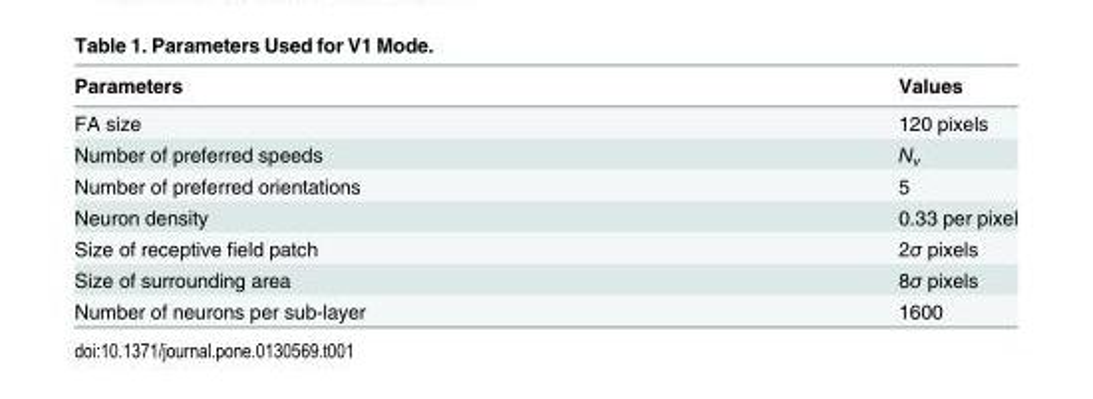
<table><thead><tr><td>Parameters</td><td>Values</td></tr></thead><tbody><tr><td>FA size</td><td>120 pixels</td></tr><tr><td>Number of preferred speeds</td><td>N<sub>v</sub></td></tr><tr><td>Number of preferred orientations</td><td>5</td></tr><tr><td>Neuron density</td><td>0.33 per pixel</td></tr><tr><td>Size of receptive field patch</td><td>2σ pixels</td></tr><tr><td>Size of surrounding area</td><td>8σ pixels</td></tr><tr><td>Number of neurons per sub-layer</td><td>1600</td></tr></tbody></table>